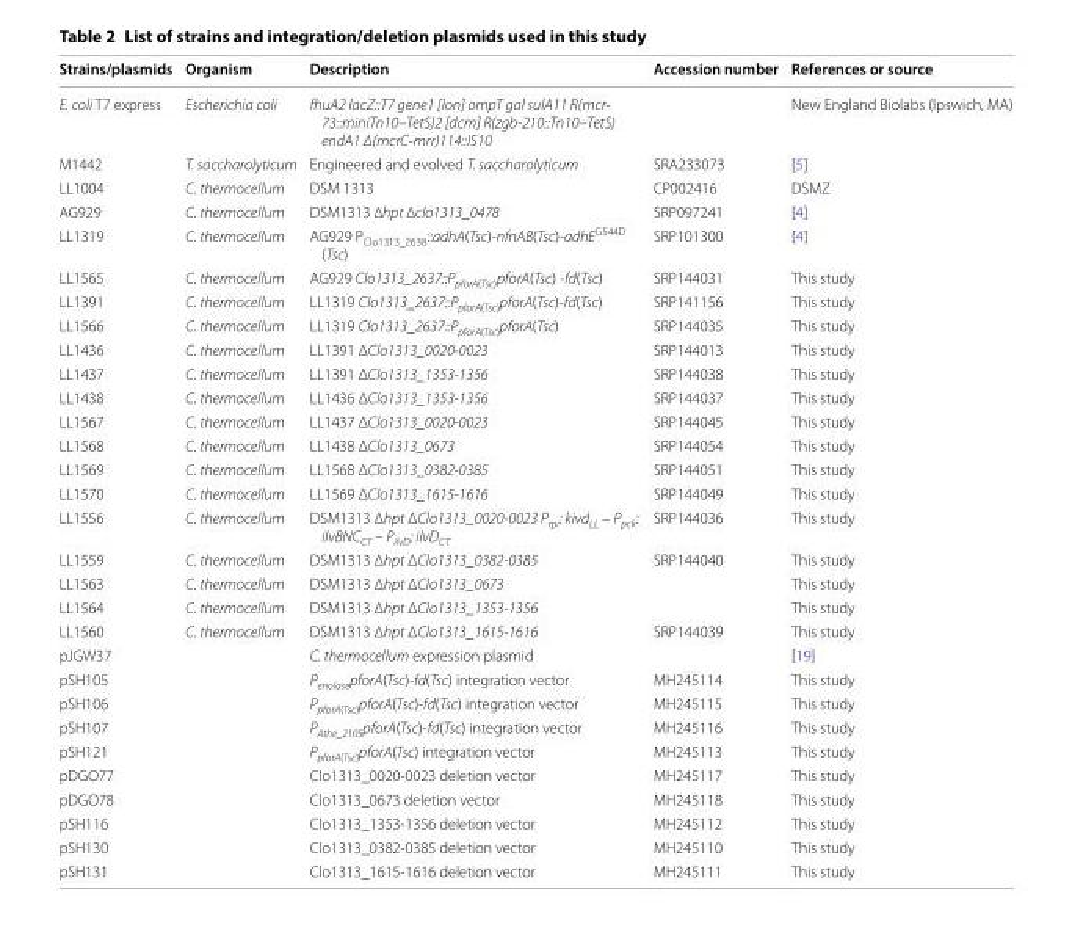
<table><thead><tr><td>Strains/plasmids</td><td>Organism</td><td>Description</td><td>Accession number</td><td>References or source</td></tr></thead><tbody><tr><td>E. coli T7 express</td><td>Escherichia coli</td><td>fhuA2 lacZ::T7 gene1 [lon] ompT gal sulA11 R(mcr- 73::miniTn10–TetS)2 [dcm] R(zgb-210::Tn10–TetS) endA1 Δ(mcrC-mrr)114::IS10</td><td></td><td>New England Biolabs (Ipswich, MA)</td></tr><tr><td>M1442</td><td>T. saccharolyticum</td><td>Engineered and evolved T. saccharolyticum</td><td>SRA233073</td><td>[5]</td></tr><tr><td>LL1004</td><td>C. thermocellum</td><td>DSM 1313</td><td>CP002416</td><td>DSMZ</td></tr><tr><td>AG929</td><td>C. thermocellum</td><td>DSM1313 ∆hpt ∆clo1313_0478</td><td>SRP097241</td><td>[4]</td></tr><tr><td>LL1319</td><td>C. thermocellum</td><td>AG929 P<sub>Clo1313_2638</sub>::adhA(Tsc)-nfnAB(Tsc)-adhE<sup>G544D</sup> (Tsc)</td><td>SRP101300</td><td>[4]</td></tr><tr><td>LL1565</td><td>C. thermocellum</td><td>AG929 Clo1313_2637::P<sub>pforA(Tsc)</sub>pforA(Tsc) -fd(Tsc)</td><td>SRP144031</td><td>This study</td></tr><tr><td>LL1391</td><td>C. thermocellum</td><td>LL1319 Clo1313_2637::P<sub>pforA(Tsc)</sub>pforA(Tsc)-fd(Tsc)</td><td>SRP141156</td><td>This study</td></tr><tr><td>LL1566</td><td>C. thermocellum</td><td>LL1319 Clo1313_2637::P<sub>pforA(Tsc)</sub>pforA(Tsc)</td><td>SRP144035</td><td>This study</td></tr><tr><td>LL1436</td><td>C. thermocellum</td><td>LL1391 ΔClo1313_0020-0023</td><td>SRP144013</td><td>This study</td></tr><tr><td>LL1437</td><td>C. thermocellum</td><td>LL1391 ΔClo1313_1353-1356</td><td>SRP144038</td><td>This study</td></tr><tr><td>LL1438</td><td>C. thermocellum</td><td>LL1436 ΔClo1313_1353-1356</td><td>SRP144037</td><td>This study</td></tr><tr><td>LL1567</td><td>C. thermocellum</td><td>LL1437 ΔClo1313_0020-0023</td><td>SRP144045</td><td>This study</td></tr><tr><td>LL1568</td><td>C. thermocellum</td><td>LL1438 ΔClo1313_0673</td><td>SRP144054</td><td>This study</td></tr><tr><td>LL1569</td><td>C. thermocellum</td><td>LL1568 ΔClo1313_0382-0385</td><td>SRP144051</td><td>This study</td></tr><tr><td>LL1570</td><td>C. thermocellum</td><td>LL1569 ΔClo1313_1615-1616</td><td>SRP144049</td><td>This study</td></tr><tr><td>LL1556</td><td>C. thermocellum</td><td>DSM1313 Δhpt ΔClo1313_0020-0023 P<sub>rpi</sub>: kivd<sub>LL</sub> – P<sub>pck</sub>: ilvBNC<sub>CT</sub> – P<sub>ilvD</sub>: ilvD<sub>CT</sub></td><td>SRP144036</td><td>This study</td></tr><tr><td>LL1559</td><td>C. thermocellum</td><td>DSM1313 Δhpt ΔClo1313_0382-0385</td><td>SRP144040</td><td>This study</td></tr><tr><td>LL1563</td><td>C. thermocellum</td><td>DSM1313 Δhpt ΔClo1313_0673</td><td></td><td>This study</td></tr><tr><td>LL1564</td><td>C. thermocellum</td><td>DSM1313 Δhpt ΔClo1313_1353-1356</td><td></td><td>This study</td></tr><tr><td>LL1560</td><td>C. thermocellum</td><td>DSM1313 Δhpt ΔClo1313_1615-1616</td><td>SRP144039</td><td>This study</td></tr><tr><td>pJGW37</td><td></td><td>C. thermocellum expression plasmid</td><td></td><td>[19]</td></tr><tr><td>pSH105</td><td></td><td>P<sub>enolase</sub>pforA(Tsc)-fd(Tsc) integration vector</td><td>MH245114</td><td>This study</td></tr><tr><td>pSH106</td><td></td><td>P<sub>pforA(Tsc)</sub>pforA(Tsc)-fd(Tsc) integration vector</td><td>MH245115</td><td>This study</td></tr><tr><td>pSH107</td><td></td><td>P<sub>Athe_2105</sub>pforA(Tsc)-fd(Tsc) integration vector</td><td>MH245116</td><td>This study</td></tr><tr><td>pSH121</td><td></td><td>P<sub>pforA(Tsc)</sub>pforA(Tsc) integration vector</td><td>MH245113</td><td>This study</td></tr><tr><td>pDGO77</td><td></td><td>Clo1313_0020-0023 deletion vector</td><td>MH245117</td><td>This study</td></tr><tr><td>pDGO78</td><td></td><td>Clo1313_0673 deletion vector</td><td>MH245118</td><td>This study</td></tr><tr><td>pSH116</td><td></td><td>Clo1313_1353-1356 deletion vector</td><td>MH245112</td><td>This study</td></tr><tr><td>pSH130</td><td></td><td>Clo1313_0382-0385 deletion vector</td><td>MH245110</td><td>This study</td></tr><tr><td>pSH131</td><td></td><td>Clo1313_1615-1616 deletion vector</td><td>MH245111</td><td>This study</td></tr></tbody></table>